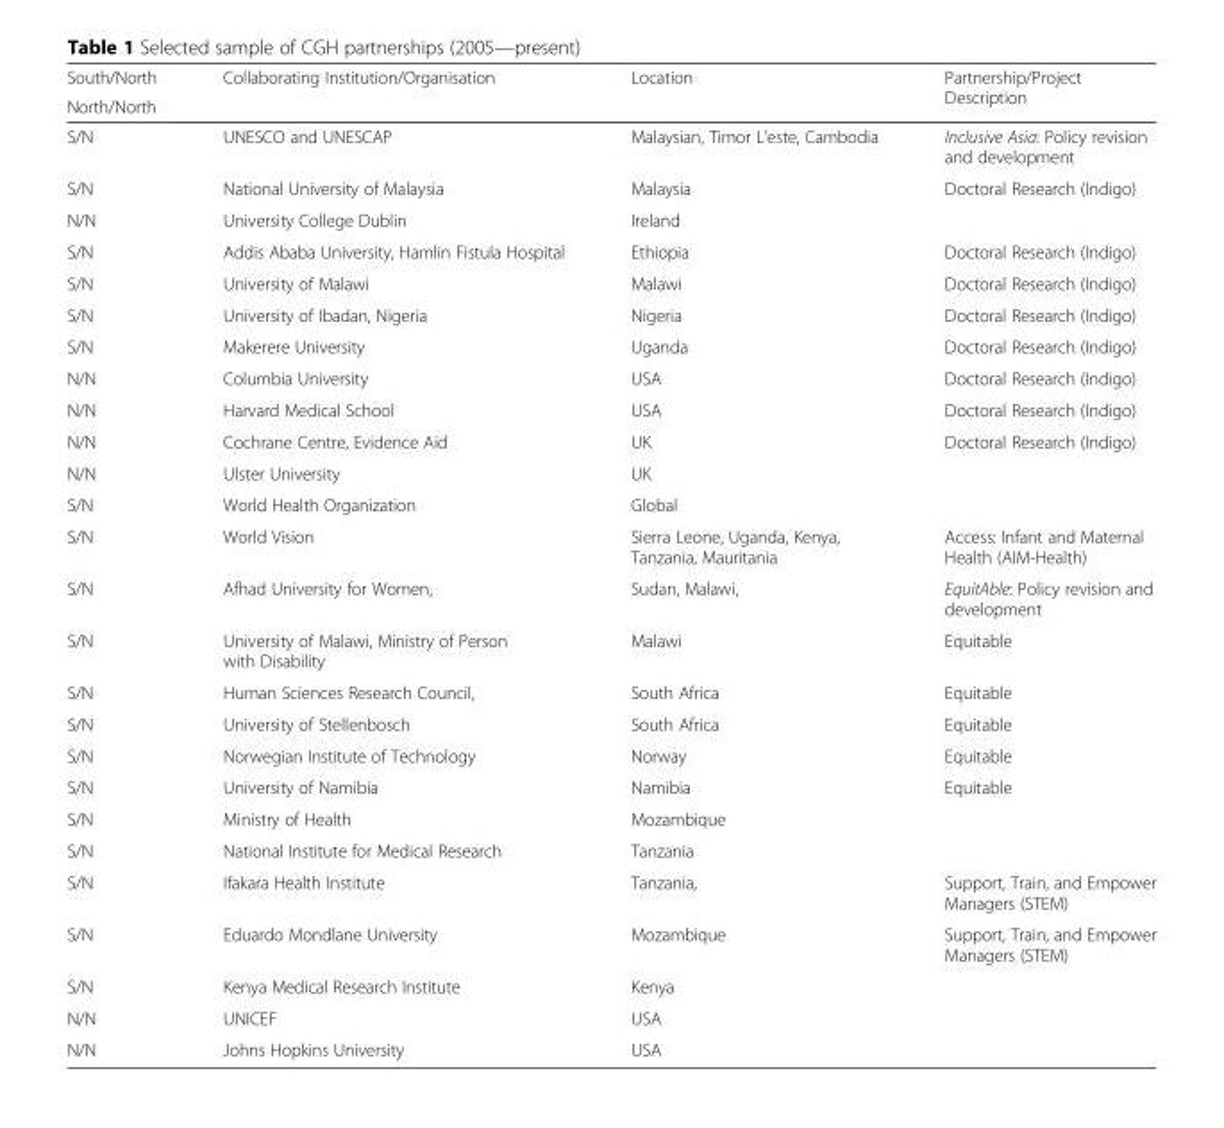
<table><thead><tr><td rowspan="2">South/North North/North</td><td rowspan="2">Collaborating Institution/Organisation</td><td rowspan="2">Location</td><td rowspan="2">Partnership/Project Description</td></tr><tr></tr></thead><tbody><tr><td>S/N</td><td>UNESCO and UNESCAP</td><td>Malaysian, Timor L’este, Cambodia</td><td>Inclusive Asia: Policy revision and development</td></tr><tr><td>S/N</td><td>National University of Malaysia</td><td>Malaysia</td><td>Doctoral Research (Indigo)</td></tr><tr><td>N/N</td><td>University College Dublin</td><td>Ireland</td><td></td></tr><tr><td>S/N</td><td>Addis Ababa University, Hamlin Fistula Hospital</td><td>Ethiopia</td><td>Doctoral Research (Indigo)</td></tr><tr><td>S/N</td><td>University of Malawi</td><td>Malawi</td><td>Doctoral Research (Indigo)</td></tr><tr><td>S/N</td><td>University of Ibadan, Nigeria</td><td>Nigeria</td><td>Doctoral Research (Indigo)</td></tr><tr><td>S/N</td><td>Makerere University</td><td>Uganda</td><td>Doctoral Research (Indigo)</td></tr><tr><td>N/N</td><td>Columbia University</td><td>USA</td><td>Doctoral Research (Indigo)</td></tr><tr><td>N/N</td><td>Harvard Medical School</td><td>USA</td><td>Doctoral Research (Indigo)</td></tr><tr><td>N/N</td><td>Cochrane Centre, Evidence Aid</td><td>UK</td><td>Doctoral Research (Indigo)</td></tr><tr><td>N/N</td><td>Ulster University</td><td>UK</td><td></td></tr><tr><td>S/N</td><td>World Health Organization</td><td>Global</td><td></td></tr><tr><td>S/N</td><td>World Vision</td><td>Sierra Leone, Uganda, Kenya, Tanzania, Mauritania</td><td>Access: Infant and Maternal Health (AIM-Health)</td></tr><tr><td>S/N</td><td>Afhad University for Women,</td><td>Sudan, Malawi,</td><td>EquitAble: Policy revision and development</td></tr><tr><td>S/N</td><td>University of Malawi, Ministry of Person with Disability</td><td>Malawi</td><td>Equitable</td></tr><tr><td>S/N</td><td>Human Sciences Research Council,</td><td>South Africa</td><td>Equitable</td></tr><tr><td>S/N</td><td>University of Stellenbosch</td><td>South Africa</td><td>Equitable</td></tr><tr><td>S/N</td><td>Norwegian Institute of Technology</td><td>Norway</td><td>Equitable</td></tr><tr><td>S/N</td><td>University of Namibia</td><td>Namibia</td><td>Equitable</td></tr><tr><td>S/N</td><td>Ministry of Health</td><td>Mozambique</td><td></td></tr><tr><td>S/N</td><td>National Institute for Medical Research</td><td>Tanzania</td><td></td></tr><tr><td>S/N</td><td>Ifakara Health Institute</td><td>Tanzania,</td><td>Support, Train, and Empower Managers (STEM)</td></tr><tr><td>S/N</td><td>Eduardo Mondlane University</td><td>Mozambique</td><td>Support, Train, and Empower Managers (STEM)</td></tr><tr><td>S/N</td><td>Kenya Medical Research Institute</td><td>Kenya</td><td></td></tr><tr><td>N/N</td><td>UNICEF</td><td>USA</td><td></td></tr><tr><td>N/N</td><td>Johns Hopkins University</td><td>USA</td><td></td></tr></tbody></table>